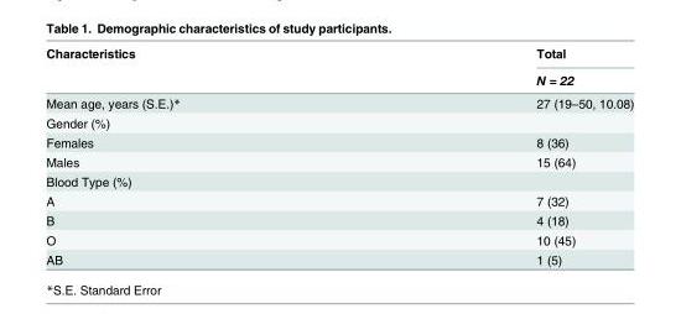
<table><thead><tr><td rowspan="2">Characteristics</td><td rowspan="2">Total N = 22</td></tr><tr></tr></thead><tbody><tr><td>Mean age, years (S.E.)*</td><td>27 (19–50, 10.08)</td></tr><tr><td colspan="2">Gender (%)</td></tr><tr><td>Females</td><td>8 (36)</td></tr><tr><td>Males</td><td>15 (64)</td></tr><tr><td colspan="2">Blood Type (%)</td></tr><tr><td>A</td><td>7 (32)</td></tr><tr><td>B</td><td>4 (18)</td></tr><tr><td>O</td><td>10 (45)</td></tr><tr><td>AB</td><td>1 (5)</td></tr></tbody></table>